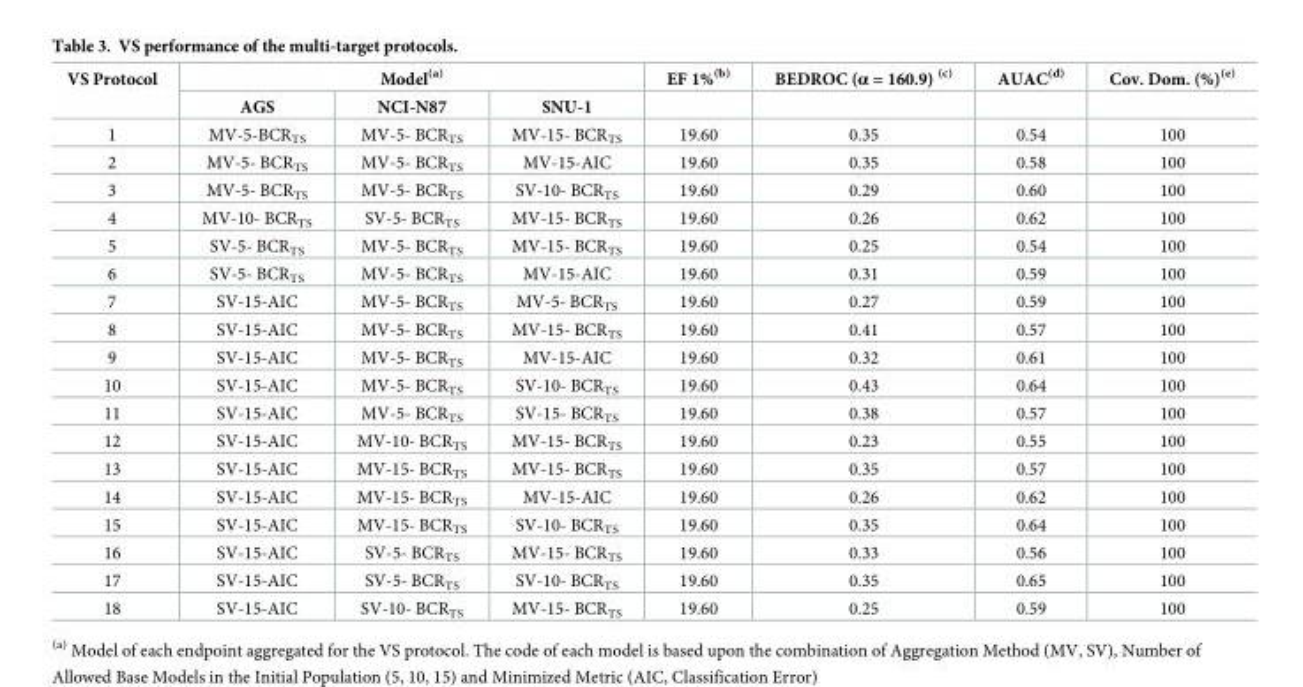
<table><thead><tr><td rowspan="2">VS Protocol</td><td colspan="3">Model<sup>(a)</sup></td><td rowspan="2">EF 1%<sup>(b)</sup></td><td rowspan="2">BEDROC (α = 160.9) <sup>(c)</sup></td><td rowspan="2">AUAC<sup>(d)</sup></td><td rowspan="2">Cov. Dom. (%)<sup>(e)</sup></td></tr><tr><td>AGS</td><td>NCI-N87</td><td>SNU-1</td></tr></thead><tbody><tr><td>1</td><td>MV-5-BCR<sub>TS</sub></td><td>MV-5- BCR<sub>TS</sub></td><td>MV-15- BCR<sub>TS</sub></td><td>19.60</td><td>0.35</td><td>0.54</td><td>100</td></tr><tr><td>2</td><td>MV-5- BCR<sub>TS</sub></td><td>MV-5- BCR<sub>TS</sub></td><td>MV-15-AIC</td><td>19.60</td><td>0.35</td><td>0.58</td><td>100</td></tr><tr><td>3</td><td>MV-5- BCR<sub>TS</sub></td><td>MV-5- BCR<sub>TS</sub></td><td>SV-10- BCR<sub>TS</sub></td><td>19.60</td><td>0.29</td><td>0.60</td><td>100</td></tr><tr><td>4</td><td>MV-10- BCR<sub>TS</sub></td><td>SV-5- BCR<sub>TS</sub></td><td>MV-15- BCR<sub>TS</sub></td><td>19.60</td><td>0.26</td><td>0.62</td><td>100</td></tr><tr><td>5</td><td>SV-5- BCR<sub>TS</sub></td><td>MV-5- BCR<sub>TS</sub></td><td>MV-15- BCR<sub>TS</sub></td><td>19.60</td><td>0.25</td><td>0.54</td><td>100</td></tr><tr><td>6</td><td>SV-5- BCR<sub>TS</sub></td><td>MV-5- BCR<sub>TS</sub></td><td>MV-15-AIC</td><td>19.60</td><td>0.31</td><td>0.59</td><td>100</td></tr><tr><td>7</td><td>SV-15-AIC</td><td>MV-5- BCR<sub>TS</sub></td><td>MV-5- BCR<sub>TS</sub></td><td>19.60</td><td>0.27</td><td>0.59</td><td>100</td></tr><tr><td>8</td><td>SV-15-AIC</td><td>MV-5- BCR<sub>TS</sub></td><td>MV-15- BCR<sub>TS</sub></td><td>19.60</td><td>0.41</td><td>0.57</td><td>100</td></tr><tr><td>9</td><td>SV-15-AIC</td><td>MV-5- BCR<sub>TS</sub></td><td>MV-15-AIC</td><td>19.60</td><td>0.32</td><td>0.61</td><td>100</td></tr><tr><td>10</td><td>SV-15-AIC</td><td>MV-5- BCR<sub>TS</sub></td><td>SV-10- BCR<sub>TS</sub></td><td>19.60</td><td>0.43</td><td>0.64</td><td>100</td></tr><tr><td>11</td><td>SV-15-AIC</td><td>MV-5- BCR<sub>TS</sub></td><td>SV-15- BCR<sub>TS</sub></td><td>19.60</td><td>0.38</td><td>0.57</td><td>100</td></tr><tr><td>12</td><td>SV-15-AIC</td><td>MV-10- BCR<sub>TS</sub></td><td>MV-15- BCR<sub>TS</sub></td><td>19.60</td><td>0.23</td><td>0.55</td><td>100</td></tr><tr><td>13</td><td>SV-15-AIC</td><td>MV-15- BCR<sub>TS</sub></td><td>MV-15- BCR<sub>TS</sub></td><td>19.60</td><td>0.35</td><td>0.57</td><td>100</td></tr><tr><td>14</td><td>SV-15-AIC</td><td>MV-15- BCR<sub>TS</sub></td><td>MV-15-AIC</td><td>19.60</td><td>0.26</td><td>0.62</td><td>100</td></tr><tr><td>15</td><td>SV-15-AIC</td><td>MV-15- BCR<sub>TS</sub></td><td>SV-10- BCR<sub>TS</sub></td><td>19.60</td><td>0.35</td><td>0.64</td><td>100</td></tr><tr><td>16</td><td>SV-15-AIC</td><td>SV-5- BCR<sub>TS</sub></td><td>MV-15- BCR<sub>TS</sub></td><td>19.60</td><td>0.33</td><td>0.56</td><td>100</td></tr><tr><td>17</td><td>SV-15-AIC</td><td>SV-5- BCR<sub>TS</sub></td><td>SV-10- BCR<sub>TS</sub></td><td>19.60</td><td>0.35</td><td>0.65</td><td>100</td></tr><tr><td>18</td><td>SV-15-AIC</td><td>SV-10- BCR<sub>TS</sub></td><td>MV-15- BCR<sub>TS</sub></td><td>19.60</td><td>0.25</td><td>0.59</td><td>100</td></tr></tbody></table>